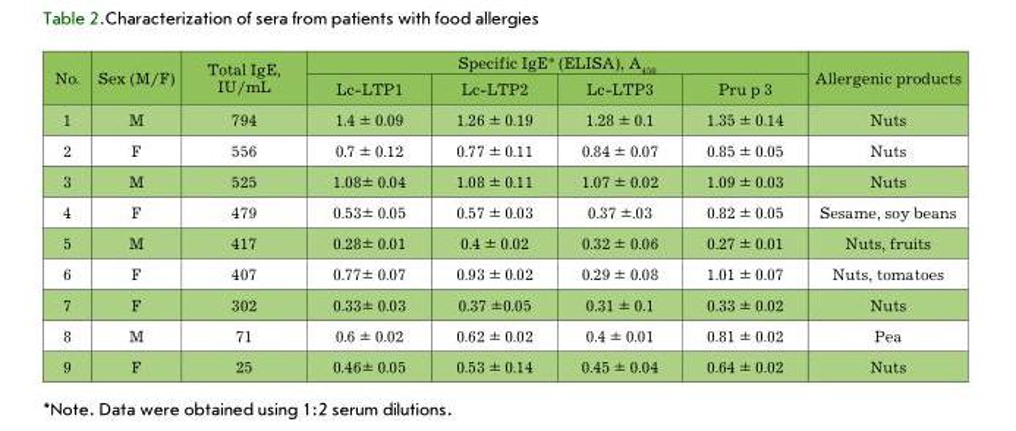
<table><thead><tr><td rowspan="2">No.</td><td rowspan="2">Sex (M/F)</td><td rowspan="2">Total IgE, IU/mL</td><td colspan="4">Specific IgE* (ELISA), A<sub>450</sub></td><td rowspan="2">Allergenic products</td></tr><tr><td>Lc-LTP1</td><td>Lc-LTP2</td><td>Lc-LTP3</td><td>Pru p 3</td></tr></thead><tbody><tr><td>1</td><td>M</td><td>794</td><td>1.4 ± 0.09</td><td>1.26 ± 0.19</td><td>1.28 ± 0.1</td><td>1.35 ± 0.14</td><td>Nuts</td></tr><tr><td>2</td><td>F</td><td>556</td><td>0.7 ± 0.12</td><td>0.77 ± 0.11</td><td>0.84 ± 0.07</td><td>0.85 ± 0.05</td><td>Nuts</td></tr><tr><td>3</td><td>M</td><td>525</td><td>1.08± 0.04</td><td>1.08 ± 0.11</td><td>1.07 ± 0.02</td><td>1.09 ± 0.03</td><td>Nuts</td></tr><tr><td>4</td><td>F</td><td>479</td><td>0.53± 0.05</td><td>0.57 ± 0.03</td><td>0.37 ±.03</td><td>0.82 ± 0.05</td><td>Sesame, soy beans</td></tr><tr><td>5</td><td>M</td><td>417</td><td>0.28± 0.01</td><td>0.4 ± 0.02</td><td>0.32 ± 0.06</td><td>0.27 ± 0.01</td><td>Nuts, fruits</td></tr><tr><td>6</td><td>F</td><td>407</td><td>0.77± 0.07</td><td>0.93 ± 0.02</td><td>0.29 ± 0.08</td><td>1.01 ± 0.07</td><td>Nuts, tomatoes</td></tr><tr><td>7</td><td>F</td><td>302</td><td>0.33± 0.03</td><td>0.37 ±0.05</td><td>0.31 ± 0.1</td><td>0.33 ± 0.02</td><td>Nuts</td></tr><tr><td>8</td><td>M</td><td>71</td><td>0.6 ± 0.02</td><td>0.62 ± 0.02</td><td>0.4 ± 0.01</td><td>0.81 ± 0.02</td><td>Pea</td></tr><tr><td>9</td><td>F</td><td>25</td><td>0.46± 0.05</td><td>0.53 ± 0.14</td><td>0.45 ± 0.04</td><td>0.64 ± 0.02</td><td>Nuts</td></tr></tbody></table>